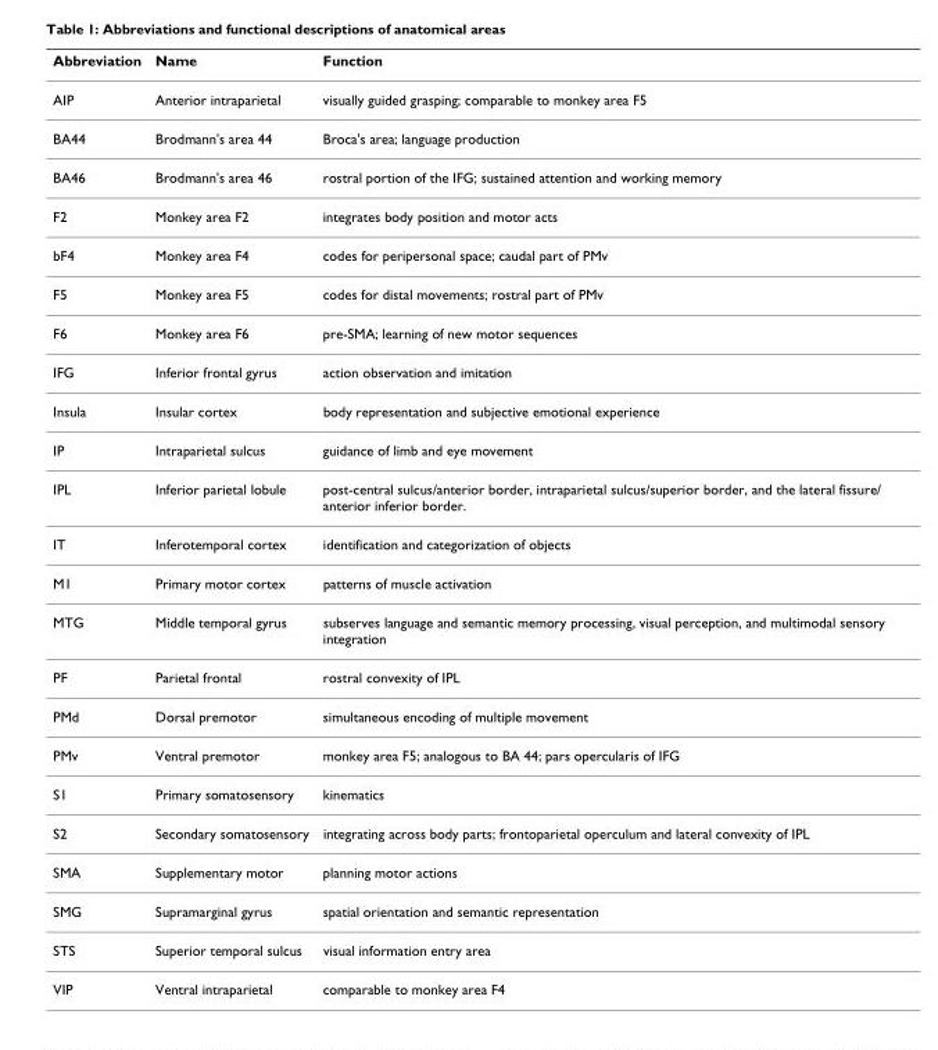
<table><thead><tr><td>Abbreviation</td><td>Name</td><td>Function</td></tr></thead><tbody><tr><td>AIP</td><td>Anterior intraparietal</td><td>visually guided grasping; comparable to monkey area F5</td></tr><tr><td>BA44</td><td>Brodmann&#x27;s area 44</td><td>Broca&#x27;s area; language production</td></tr><tr><td>BA46</td><td>Brodmann&#x27;s area 46</td><td>rostral portion of the IFG; sustained attention and working memory</td></tr><tr><td>F2</td><td>Monkey area F2</td><td>integrates body position and motor acts</td></tr><tr><td>bF4</td><td>Monkey area F4</td><td>codes for peripersonal space; caudal part of PMv</td></tr><tr><td>F5</td><td>Monkey area F5</td><td>codes for distal movements; rostral part of PMv</td></tr><tr><td>F6</td><td>Monkey area F6</td><td>pre-SMA; learning of new motor sequences</td></tr><tr><td>IFG</td><td>Inferior frontal gyrus</td><td>action observation and imitation</td></tr><tr><td>Insula</td><td>Insular cortex</td><td>body representation and subjective emotional experience</td></tr><tr><td>IP</td><td>Intraparietal sulcus</td><td>guidance of limb and eye movement</td></tr><tr><td>IPL</td><td>Inferior parietal lobule</td><td>post-central sulcus/anterior border, intraparietal sulcus/superior border, and the lateral fissure/ anterior inferior border.</td></tr><tr><td>IT</td><td>Inferotemporal cortex</td><td>identification and categorization of objects</td></tr><tr><td>M1</td><td>Primary motor cortex</td><td>patterns of muscle activation</td></tr><tr><td>MTG</td><td>Middle temporal gyrus</td><td>subserves language and semantic memory processing, visual perception, and multimodal sensory integration</td></tr><tr><td>PF</td><td>Parietal frontal</td><td>rostral convexity of IPL</td></tr><tr><td>PMd</td><td>Dorsal premotor</td><td>simultaneous encoding of multiple movement</td></tr><tr><td>PMv</td><td>Ventral premotor</td><td>monkey area F5; analogous to BA 44; pars opercularis of IFG</td></tr><tr><td>S1</td><td>Primary somatosensory</td><td>kinematics</td></tr><tr><td>S2</td><td>Secondary somatosensory</td><td>integrating across body parts; frontoparietal operculum and lateral convexity of IPL</td></tr><tr><td>SMA</td><td>Supplementary motor</td><td>planning motor actions</td></tr><tr><td>SMG</td><td>Supramarginal gyrus</td><td>spatial orientation and semantic representation</td></tr><tr><td>STS</td><td>Superior temporal sulcus</td><td>visual information entry area</td></tr><tr><td>VIP</td><td>Ventral intraparietal</td><td>comparable to monkey area F4</td></tr></tbody></table>